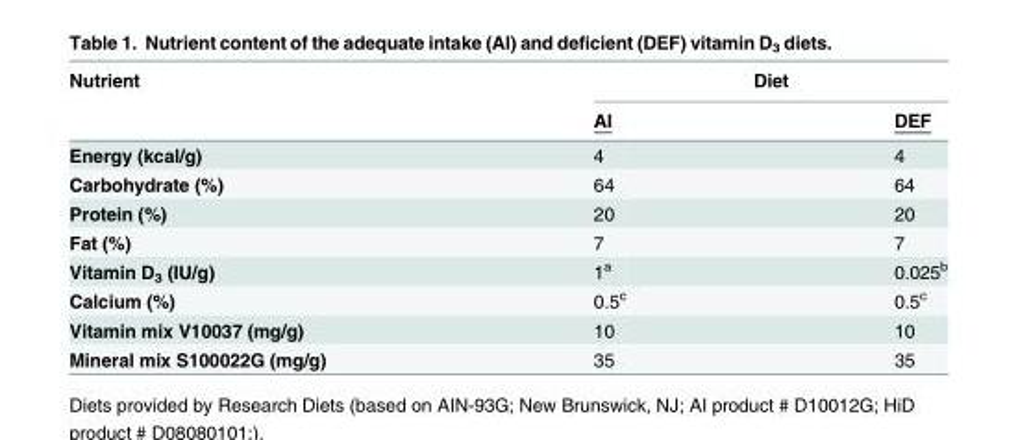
<table><thead><tr><td rowspan="2">Nutrient</td><td colspan="2">Diet</td></tr><tr><td>AI</td><td>DEF</td></tr></thead><tbody><tr><td>Energy (kcal/g)</td><td>4</td><td>4</td></tr><tr><td>Carbohydrate (%)</td><td>64</td><td>64</td></tr><tr><td>Protein (%)</td><td>20</td><td>20</td></tr><tr><td>Fat (%)</td><td>7</td><td>7</td></tr><tr><td>Vitamin D<sub>3</sub> (IU/g)</td><td>1<sup>a</sup></td><td>0.025<sup>b</sup></td></tr><tr><td>Calcium (%)</td><td>0.5<sup>c</sup></td><td>0.5<sup>c</sup></td></tr><tr><td>Vitamin mix V10037 (mg/g)</td><td>10</td><td>10</td></tr><tr><td>Mineral mix S100022G (mg/g)</td><td>35</td><td>35</td></tr></tbody></table>